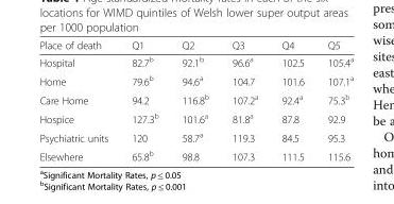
<table><thead><tr><td>Place of death</td><td>Q1</td><td>Q2</td><td>Q3</td><td>Q4</td><td>Q5</td></tr></thead><tbody><tr><td>Hospital</td><td>82.7<sup>b</sup></td><td>92.1<sup>b</sup></td><td>96.6<sup>a</sup></td><td>102.5</td><td>105.4<sup>a</sup></td></tr><tr><td>Home</td><td>79.6<sup>b</sup></td><td>94.6<sup>a</sup></td><td>104.7</td><td>101.6</td><td>107.1<sup>a</sup></td></tr><tr><td>Care Home</td><td>94.2</td><td>116.8<sup>b</sup></td><td>107.2<sup>a</sup></td><td>92.4<sup>a</sup></td><td>75.3<sup>b</sup></td></tr><tr><td>Hospice</td><td>127.3<sup>b</sup></td><td>101.6<sup>a</sup></td><td>81.8<sup>a</sup></td><td>87.8</td><td>92.9</td></tr><tr><td>Psychiatric units</td><td>120</td><td>58.7<sup>a</sup></td><td>119.3</td><td>84.5</td><td>95.3</td></tr><tr><td>Elsewhere</td><td>65.8<sup>b</sup></td><td>98.8</td><td>107.3</td><td>111.5</td><td>115.6</td></tr></tbody></table>